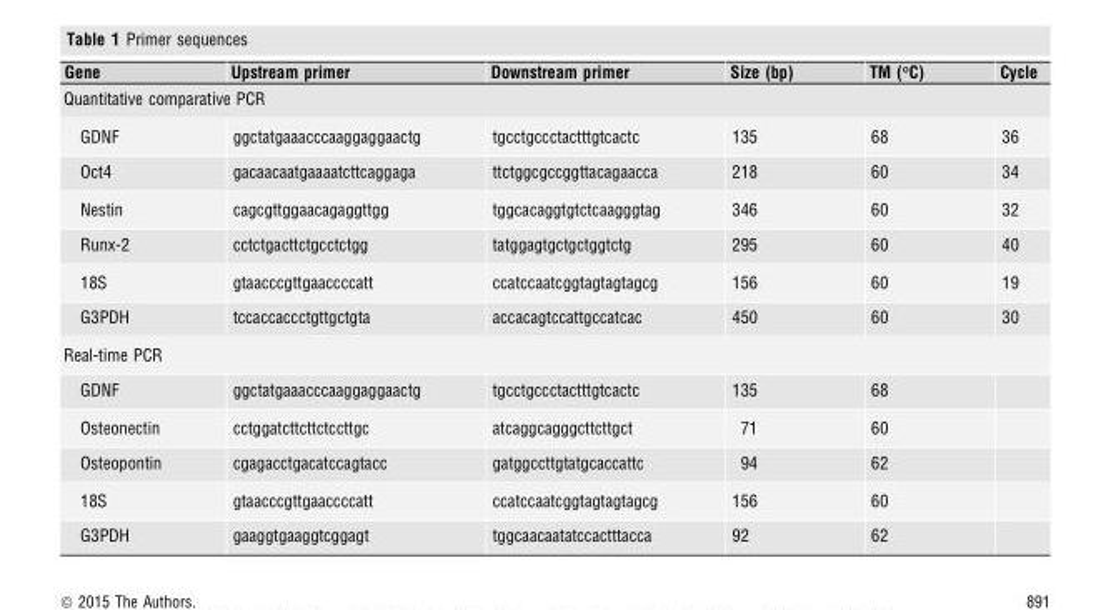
<table><thead><tr><td>Gene</td><td>Upstream primer</td><td>Downstream primer</td><td>Size (bp)</td><td>TM (°C)</td><td>Cycle</td></tr></thead><tbody><tr><td colspan="6">Quantitative comparative PCR</td></tr><tr><td>GDNF</td><td>ggctatgaaacccaaggaggaactg</td><td>tgcctgccctactttgtcactc</td><td>135</td><td>68</td><td>36</td></tr><tr><td>Oct4</td><td>gacaacaatgaaaatcttcaggaga</td><td>ttctggcgccggttacagaacca</td><td>218</td><td>60</td><td>34</td></tr><tr><td>Nestin</td><td>cagcgttggaacagaggttgg</td><td>tggcacaggtgtctcaagggtag</td><td>346</td><td>60</td><td>32</td></tr><tr><td>Runx-2</td><td>cctctgacttctgcctctgg</td><td>tatggagtgctgctggtctg</td><td>295</td><td>60</td><td>40</td></tr><tr><td>18S</td><td>gtaacccgttgaaccccatt</td><td>ccatccaatcggtagtagtagcg</td><td>156</td><td>60</td><td>19</td></tr><tr><td>G3PDH</td><td>tccaccaccctgttgctgta</td><td>accacagtccattgccatcac</td><td>450</td><td>60</td><td>30</td></tr><tr><td colspan="6">Real-time PCR</td></tr><tr><td>GDNF</td><td>ggctatgaaacccaaggaggaactg</td><td>tgcctgccctactttgtcactc</td><td>135</td><td>68</td><td></td></tr><tr><td>Osteonectin</td><td>cctggatcttcttctccttgc</td><td>atcaggcagggcttcttgct</td><td>71</td><td>60</td><td></td></tr><tr><td>Osteopontin</td><td>cgagacctgacatccagtacc</td><td>gatggccttgtatgcaccattc</td><td>94</td><td>62</td><td></td></tr><tr><td>18S</td><td>gtaacccgttgaaccccatt</td><td>ccatccaatcggtagtagtagcg</td><td>156</td><td>60</td><td></td></tr><tr><td>G3PDH</td><td>gaaggtgaaggtcggagt</td><td>tggcaacaatatccactttacca</td><td>92</td><td>62</td><td></td></tr></tbody></table>